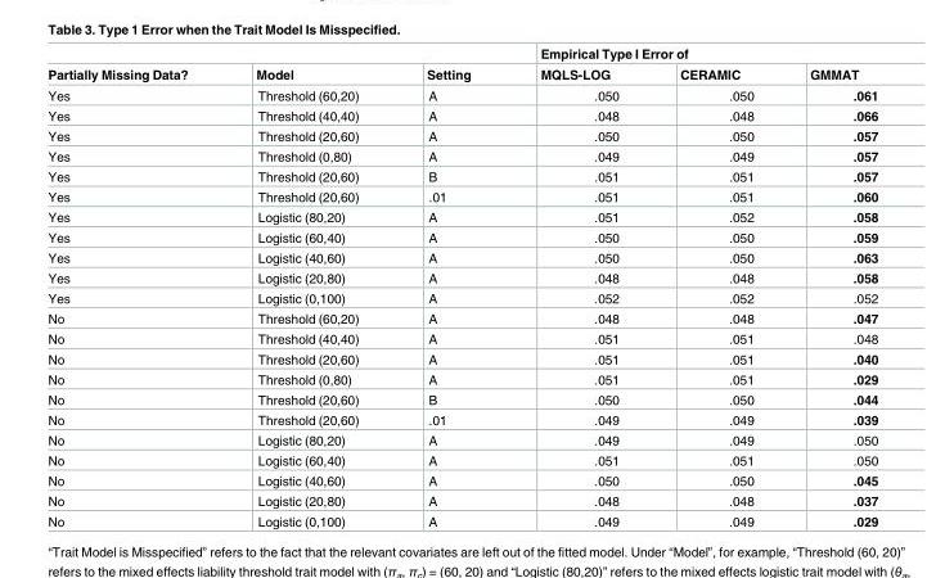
<table><thead><tr><td rowspan="2">Partially Missing Data?</td><td rowspan="2">Model</td><td rowspan="2">Setting</td><td colspan="3">Empirical Type I Error of</td></tr><tr><td>MQLS-LOG</td><td>CERAMIC</td><td>GMMAT</td></tr></thead><tbody><tr><td>Yes</td><td>Threshold (60,20)</td><td>A</td><td>.050</td><td>.050</td><td>.061</td></tr><tr><td>Yes</td><td>Threshold (40,40)</td><td>A</td><td>.048</td><td>.048</td><td>.066</td></tr><tr><td>Yes</td><td>Threshold (20,60)</td><td>A</td><td>.050</td><td>.050</td><td>.057</td></tr><tr><td>Yes</td><td>Threshold (0,80)</td><td>A</td><td>.049</td><td>.049</td><td>.057</td></tr><tr><td>Yes</td><td>Threshold (20,60)</td><td>B</td><td>.051</td><td>.051</td><td>.057</td></tr><tr><td>Yes</td><td>Threshold (20,60)</td><td>.01</td><td>.051</td><td>.051</td><td>.060</td></tr><tr><td>Yes</td><td>Logistic (80,20)</td><td>A</td><td>.051</td><td>.052</td><td>.058</td></tr><tr><td>Yes</td><td>Logistic (60,40)</td><td>A</td><td>.050</td><td>.050</td><td>.059</td></tr><tr><td>Yes</td><td>Logistic (40,60)</td><td>A</td><td>.050</td><td>.050</td><td>.063</td></tr><tr><td>Yes</td><td>Logistic (20,80)</td><td>A</td><td>.048</td><td>.048</td><td>.058</td></tr><tr><td>Yes</td><td>Logistic (0,100)</td><td>A</td><td>.052</td><td>.052</td><td>.052</td></tr><tr><td>No</td><td>Threshold (60,20)</td><td>A</td><td>.048</td><td>.048</td><td>.047</td></tr><tr><td>No</td><td>Threshold (40,40)</td><td>A</td><td>.051</td><td>.051</td><td>.048</td></tr><tr><td>No</td><td>Threshold (20,60)</td><td>A</td><td>.051</td><td>.051</td><td>.040</td></tr><tr><td>No</td><td>Threshold (0,80)</td><td>A</td><td>.051</td><td>.051</td><td>.029</td></tr><tr><td>No</td><td>Threshold (20,60)</td><td>B</td><td>.050</td><td>.050</td><td>.044</td></tr><tr><td>No</td><td>Threshold (20,60)</td><td>.01</td><td>.049</td><td>.049</td><td>.039</td></tr><tr><td>No</td><td>Logistic (80,20)</td><td>A</td><td>.049</td><td>.049</td><td>.050</td></tr><tr><td>No</td><td>Logistic (60,40)</td><td>A</td><td>.051</td><td>.051</td><td>.050</td></tr><tr><td>No</td><td>Logistic (40,60)</td><td>A</td><td>.050</td><td>.050</td><td>.045</td></tr><tr><td>No</td><td>Logistic (20,80)</td><td>A</td><td>.048</td><td>.048</td><td>.037</td></tr><tr><td>No</td><td>Logistic (0,100)</td><td>A</td><td>.049</td><td>.049</td><td>.029</td></tr></tbody></table>